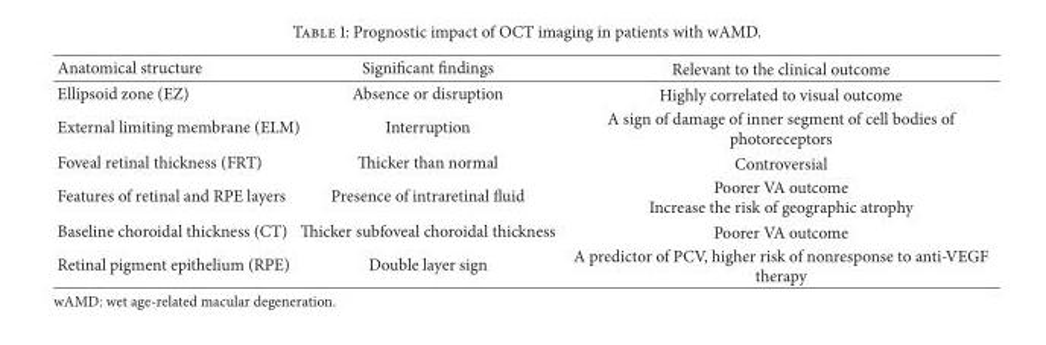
<table><thead><tr><td>Anatomical structure</td><td>Significant findings</td><td>Relevant to the clinical outcome</td></tr></thead><tbody><tr><td>Ellipsoid zone (EZ)</td><td>Absence or disruption</td><td>Highly correlated to visual outcome</td></tr><tr><td>External limiting membrane (ELM)</td><td>Interruption</td><td>A sign of damage of inner segment of cell bodies of photoreceptors</td></tr><tr><td>Foveal retinal thickness (FRT)</td><td>Thicker than normal</td><td>Controversial</td></tr><tr><td>Features of retinal and RPE layers</td><td>Presence of intraretinal fluid</td><td>Poorer VA outcome Increase the risk of geographic atrophy</td></tr><tr><td>Baseline choroidal thickness (CT)</td><td>Thicker subfoveal choroidal thickness</td><td>Poorer VA outcome</td></tr><tr><td>Retinal pigment epithelium (RPE)</td><td>Double layer sign</td><td>A predictor of PCV, higher risk of nonresponse to anti-VEGF therapy</td></tr></tbody></table>